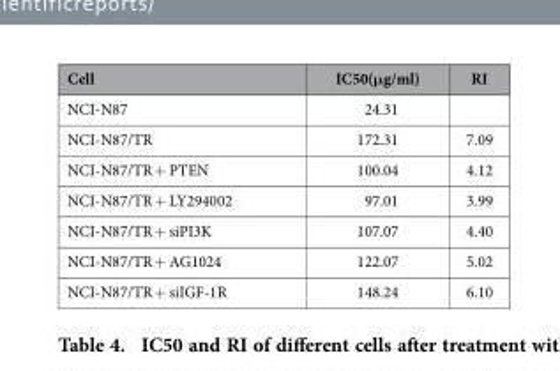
<table><thead><tr><td>Cell</td><td>IC50(μg/ml)</td><td>RI</td></tr></thead><tbody><tr><td>NCI-N87</td><td>24.31</td><td></td></tr><tr><td>NCI-N87/TR</td><td>172.31</td><td>7.09</td></tr><tr><td>NCI-N87/TR + PTEN</td><td>100.04</td><td>4.12</td></tr><tr><td>NCI-N87/TR + LY294002</td><td>97.01</td><td>3.99</td></tr><tr><td>NCI-N87/TR + siPI3K</td><td>107.07</td><td>4.40</td></tr><tr><td>NCI-N87/TR + AG1024</td><td>122.07</td><td>5.02</td></tr><tr><td>NCI-N87/TR + siIGF-1R</td><td>148.24</td><td>6.10</td></tr></tbody></table>